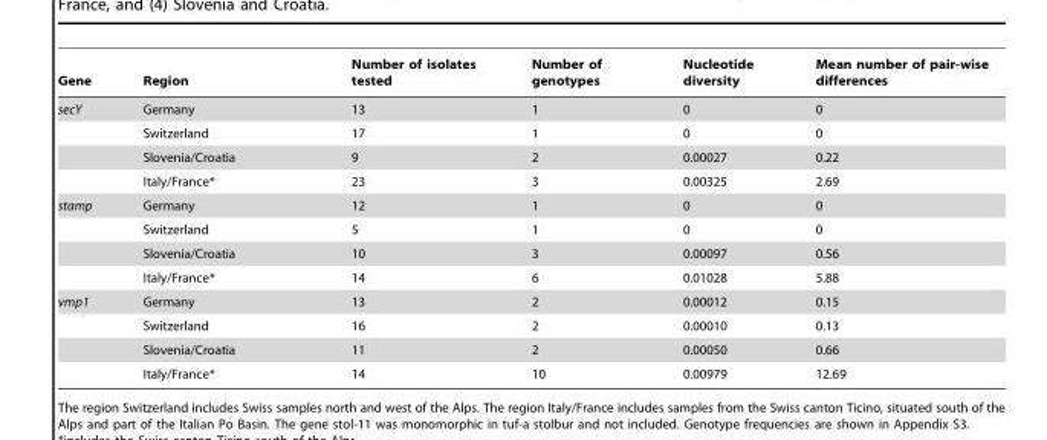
<table><thead><tr><td>Gene</td><td>Region</td><td>Number of isolates tested</td><td>Number of genotypes</td><td>Nucleotide diversity</td><td>Mean number of pair-wise differences</td></tr></thead><tbody><tr><td rowspan="4">secY</td><td>Germany</td><td>13</td><td>1</td><td>0</td><td>0</td></tr><tr><td>Switzerland</td><td>17</td><td>1</td><td>0</td><td>0</td></tr><tr><td>Slovenia/Croatia</td><td>9</td><td>2</td><td>0.00027</td><td>0.22</td></tr><tr><td>Italy/France*</td><td>23</td><td>3</td><td>0.00325</td><td>2.69</td></tr><tr><td rowspan="4">stamp</td><td>Germany</td><td>12</td><td>1</td><td>0</td><td>0</td></tr><tr><td>Switzerland</td><td>5</td><td>1</td><td>0</td><td>0</td></tr><tr><td>Slovenia/Croatia</td><td>10</td><td>3</td><td>0.00097</td><td>0.56</td></tr><tr><td>Italy/France*</td><td>14</td><td>6</td><td>0.01028</td><td>5.88</td></tr><tr><td rowspan="4">vmp1</td><td>Germany</td><td>13</td><td>2</td><td>0.00012</td><td>0.15</td></tr><tr><td>Switzerland</td><td>16</td><td>2</td><td>0.00010</td><td>0.13</td></tr><tr><td>Slovenia/Croatia</td><td>11</td><td>2</td><td>0.00050</td><td>0.66</td></tr><tr><td>Italy/France*</td><td>14</td><td>10</td><td>0.00979</td><td>12.69</td></tr></tbody></table>